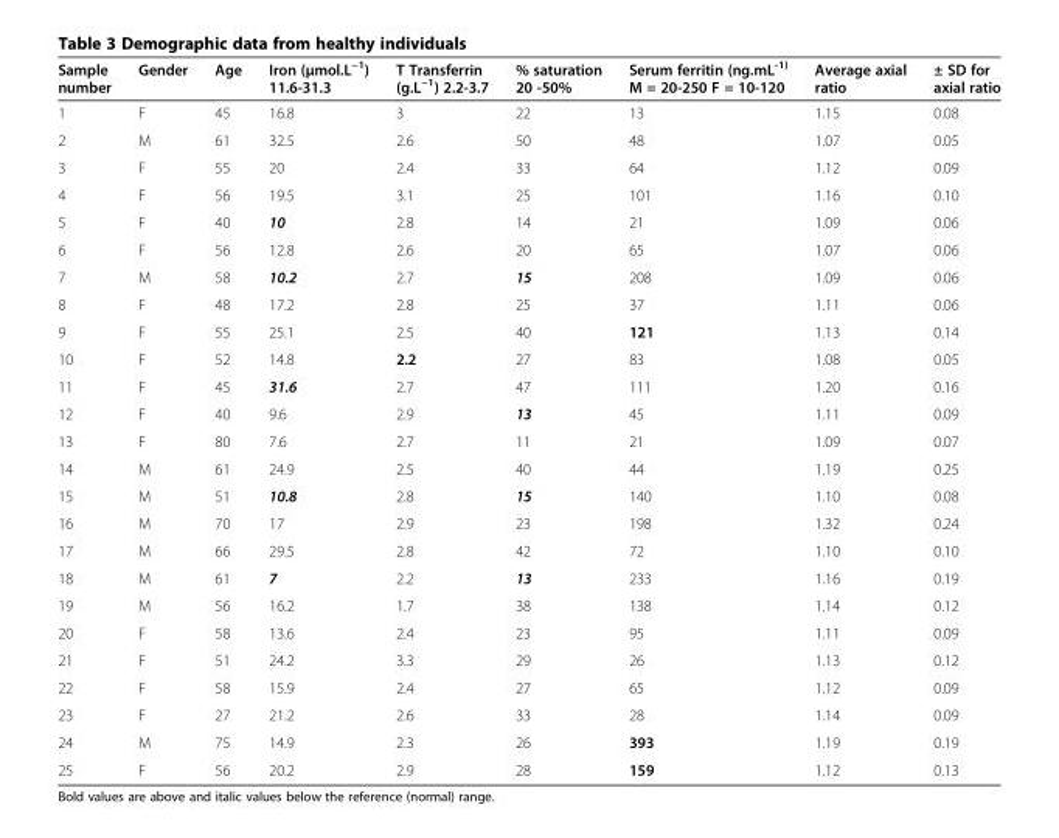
<table><thead><tr><td>Sample number</td><td>Gender</td><td>Age</td><td>Iron (μmol.L<sup>−1</sup>) 11.6-31.3</td><td>T Transferrin (g.L<sup>−1</sup>) 2.2-3.7</td><td>% saturation 20 -50%</td><td>Serum ferritin (ng.mL<sup>-1)</sup> M = 20-250 F = 10-120</td><td>Average axial ratio</td><td>± SD for axial ratio</td></tr></thead><tbody><tr><td>1</td><td>F</td><td>45</td><td>16.8</td><td>3</td><td>22</td><td>13</td><td>1.15</td><td>0.08</td></tr><tr><td>2</td><td>M</td><td>61</td><td>32.5</td><td>2.6</td><td>50</td><td>48</td><td>1.07</td><td>0.05</td></tr><tr><td>3</td><td>F</td><td>55</td><td>20</td><td>2.4</td><td>33</td><td>64</td><td>1.12</td><td>0.09</td></tr><tr><td>4</td><td>F</td><td>56</td><td>19.5</td><td>3.1</td><td>25</td><td>101</td><td>1.16</td><td>0.10</td></tr><tr><td>5</td><td>F</td><td>40</td><td>10</td><td>2.8</td><td>14</td><td>21</td><td>1.09</td><td>0.06</td></tr><tr><td>6</td><td>F</td><td>56</td><td>12.8</td><td>2.6</td><td>20</td><td>65</td><td>1.07</td><td>0.06</td></tr><tr><td>7</td><td>M</td><td>58</td><td>10.2</td><td>2.7</td><td>15</td><td>208</td><td>1.09</td><td>0.06</td></tr><tr><td>8</td><td>F</td><td>48</td><td>17.2</td><td>2.8</td><td>25</td><td>37</td><td>1.11</td><td>0.06</td></tr><tr><td>9</td><td>F</td><td>55</td><td>25.1</td><td>2.5</td><td>40</td><td>121</td><td>1.13</td><td>0.14</td></tr><tr><td>10</td><td>F</td><td>52</td><td>14.8</td><td>2.2</td><td>27</td><td>83</td><td>1.08</td><td>0.05</td></tr><tr><td>11</td><td>F</td><td>45</td><td>31.6</td><td>2.7</td><td>47</td><td>111</td><td>1.20</td><td>0.16</td></tr><tr><td>12</td><td>F</td><td>40</td><td>9.6</td><td>2.9</td><td>13</td><td>45</td><td>1.11</td><td>0.09</td></tr><tr><td>13</td><td>F</td><td>80</td><td>7.6</td><td>2.7</td><td>11</td><td>21</td><td>1.09</td><td>0.07</td></tr><tr><td>14</td><td>M</td><td>61</td><td>24.9</td><td>2.5</td><td>40</td><td>44</td><td>1.19</td><td>0.25</td></tr><tr><td>15</td><td>M</td><td>51</td><td>10.8</td><td>2.8</td><td>15</td><td>140</td><td>1.10</td><td>0.08</td></tr><tr><td>16</td><td>M</td><td>70</td><td>17</td><td>2.9</td><td>23</td><td>198</td><td>1.32</td><td>0.24</td></tr><tr><td>17</td><td>M</td><td>66</td><td>29.5</td><td>2.8</td><td>42</td><td>72</td><td>1.10</td><td>0.10</td></tr><tr><td>18</td><td>M</td><td>61</td><td>7</td><td>2.2</td><td>13</td><td>233</td><td>1.16</td><td>0.19</td></tr><tr><td>19</td><td>M</td><td>56</td><td>16.2</td><td>1.7</td><td>38</td><td>138</td><td>1.14</td><td>0.12</td></tr><tr><td>20</td><td>F</td><td>58</td><td>13.6</td><td>2.4</td><td>23</td><td>95</td><td>1.11</td><td>0.09</td></tr><tr><td>21</td><td>F</td><td>51</td><td>24.2</td><td>3.3</td><td>29</td><td>26</td><td>1.13</td><td>0.12</td></tr><tr><td>22</td><td>F</td><td>58</td><td>15.9</td><td>2.4</td><td>27</td><td>65</td><td>1.12</td><td>0.09</td></tr><tr><td>23</td><td>F</td><td>27</td><td>21.2</td><td>2.6</td><td>33</td><td>28</td><td>1.14</td><td>0.09</td></tr><tr><td>24</td><td>M</td><td>75</td><td>14.9</td><td>2.3</td><td>26</td><td>393</td><td>1.19</td><td>0.19</td></tr><tr><td>25</td><td>F</td><td>56</td><td>20.2</td><td>2.9</td><td>28</td><td>159</td><td>1.12</td><td>0.13</td></tr></tbody></table>